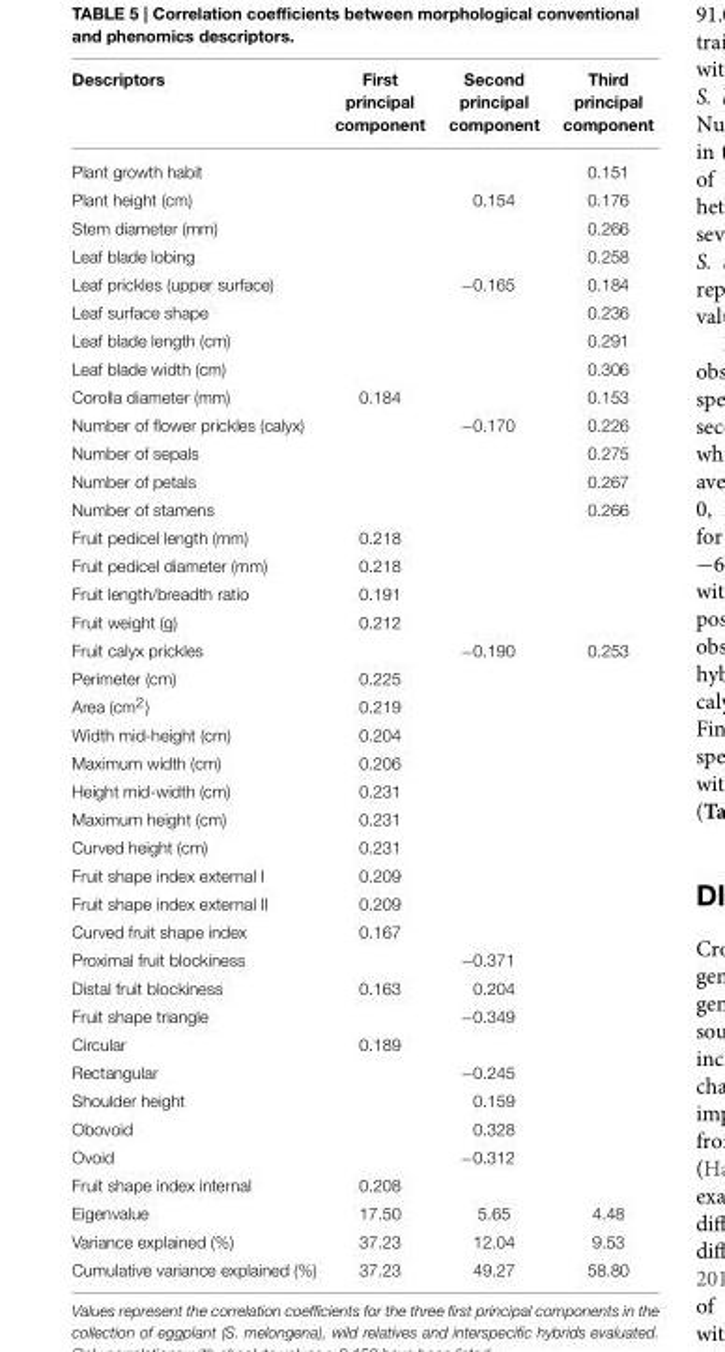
<table><thead><tr><td>Descriptors</td><td>First principal component</td><td>Second principal component</td><td>Third principal component</td></tr></thead><tbody><tr><td>Plant growth habit</td><td></td><td></td><td>0.151</td></tr><tr><td>Plant height (cm)</td><td></td><td>0.154</td><td>0.176</td></tr><tr><td>Stem diameter (mm)</td><td></td><td></td><td>0.266</td></tr><tr><td>Leaf blade lobing</td><td></td><td></td><td>0.258</td></tr><tr><td>Leaf prickles (upper surface)</td><td></td><td>−0.165</td><td>0.184</td></tr><tr><td>Leaf surface shape</td><td></td><td></td><td>0.236</td></tr><tr><td>Leaf blade length (cm)</td><td></td><td></td><td>0.291</td></tr><tr><td>Leaf blade width (cm)</td><td></td><td></td><td>0.306</td></tr><tr><td>Corolla diameter (mm)</td><td>0.184</td><td></td><td>0.153</td></tr><tr><td>Number of flower prickles (calyx)</td><td></td><td>−0.170</td><td>0.226</td></tr><tr><td>Number of sepals</td><td></td><td></td><td>0.275</td></tr><tr><td>Number of petals</td><td></td><td></td><td>0.267</td></tr><tr><td>Number of stamens</td><td></td><td></td><td>0.266</td></tr><tr><td>Fruit pedicel length (mm)</td><td>0.218</td><td></td><td></td></tr><tr><td>Fruit pedicel diameter (mm)</td><td>0.218</td><td></td><td></td></tr><tr><td>Fruit length/breadth ratio</td><td>0.191</td><td></td><td></td></tr><tr><td>Fruit weight (g)</td><td>0.212</td><td></td><td></td></tr><tr><td>Fruit calyx prickles</td><td></td><td>−0.190</td><td>0.253</td></tr><tr><td>Perimeter (cm)</td><td>0.225</td><td></td><td></td></tr><tr><td>Area (cm<sup>2</sup>)</td><td>0.219</td><td></td><td></td></tr><tr><td>Width mid-height (cm)</td><td>0.204</td><td></td><td></td></tr><tr><td>Maximum width (cm)</td><td>0.206</td><td></td><td></td></tr><tr><td>Height mid-width (cm)</td><td>0.231</td><td></td><td></td></tr><tr><td>Maximum height (cm)</td><td>0.231</td><td></td><td></td></tr><tr><td>Curved height (cm)</td><td>0.231</td><td></td><td></td></tr><tr><td>Fruit shape index external I</td><td>0.209</td><td></td><td></td></tr><tr><td>Fruit shape index external II</td><td>0.209</td><td></td><td></td></tr><tr><td>Curved fruit shape index</td><td>0.167</td><td></td><td></td></tr><tr><td>Proximal fruit blockiness</td><td></td><td>−0.371</td><td></td></tr><tr><td>Distal fruit blockiness</td><td>0.163</td><td>0.204</td><td></td></tr><tr><td>Fruit shape triangle</td><td></td><td>−0.349</td><td></td></tr><tr><td>Circular</td><td>0.189</td><td></td><td></td></tr><tr><td>Rectangular</td><td></td><td>−0.245</td><td></td></tr><tr><td>Shoulder height</td><td></td><td>0.159</td><td></td></tr><tr><td>Obovoid</td><td></td><td>0.328</td><td></td></tr><tr><td>Ovoid</td><td></td><td>−0.312</td><td></td></tr><tr><td>Fruit shape index internal</td><td>0.208</td><td></td><td></td></tr><tr><td>Eigenvalue</td><td>17.50</td><td>5.65</td><td>4.48</td></tr><tr><td>Variance explained (%)</td><td>37.23</td><td>12.04</td><td>9.53</td></tr><tr><td>Cumulative variance explained (%)</td><td>37.23</td><td>49.27</td><td>58.80</td></tr></tbody></table>